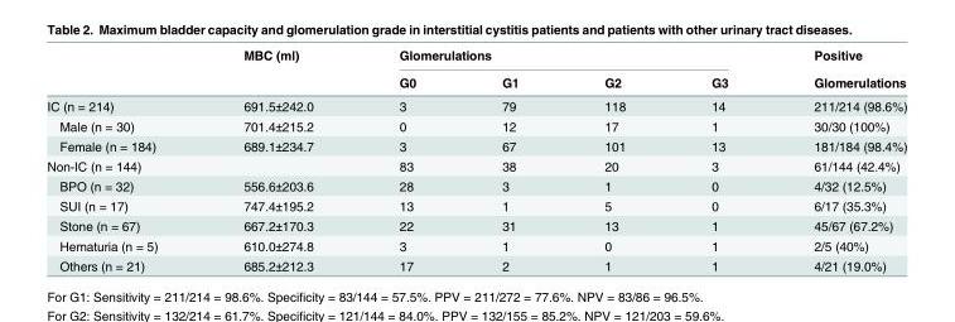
<table><thead><tr><td rowspan="2"></td><td rowspan="2">MBC (ml)</td><td colspan="4">Glomerulations</td><td rowspan="2">Positive Glomerulations</td></tr><tr><td>G0</td><td>G1</td><td>G2</td><td>G3</td></tr></thead><tbody><tr><td>IC (n = 214)</td><td>691.5±242.0</td><td>3</td><td>79</td><td>118</td><td>14</td><td>211/214 (98.6%)</td></tr><tr><td>Male (n = 30)</td><td>701.4±215.2</td><td>0</td><td>12</td><td>17</td><td>1</td><td>30/30 (100%)</td></tr><tr><td>Female (n = 184)</td><td>689.1±234.7</td><td>3</td><td>67</td><td>101</td><td>13</td><td>181/184 (98.4%)</td></tr><tr><td>Non-IC (n = 144)</td><td></td><td>83</td><td>38</td><td>20</td><td>3</td><td>61/144 (42.4%)</td></tr><tr><td>BPO (n = 32)</td><td>556.6±203.6</td><td>28</td><td>3</td><td>1</td><td>0</td><td>4/32 (12.5%)</td></tr><tr><td>SUI (n = 17)</td><td>747.4±195.2</td><td>13</td><td>1</td><td>5</td><td>0</td><td>6/17 (35.3%)</td></tr><tr><td>Stone (n = 67)</td><td>667.2±170.3</td><td>22</td><td>31</td><td>13</td><td>1</td><td>45/67 (67.2%)</td></tr><tr><td>Hematuria (n = 5)</td><td>610.0±274.8</td><td>3</td><td>1</td><td>0</td><td>1</td><td>2/5 (40%)</td></tr><tr><td>Others (n = 21)</td><td>685.2±212.3</td><td>17</td><td>2</td><td>1</td><td>1</td><td>4/21 (19.0%)</td></tr></tbody></table>